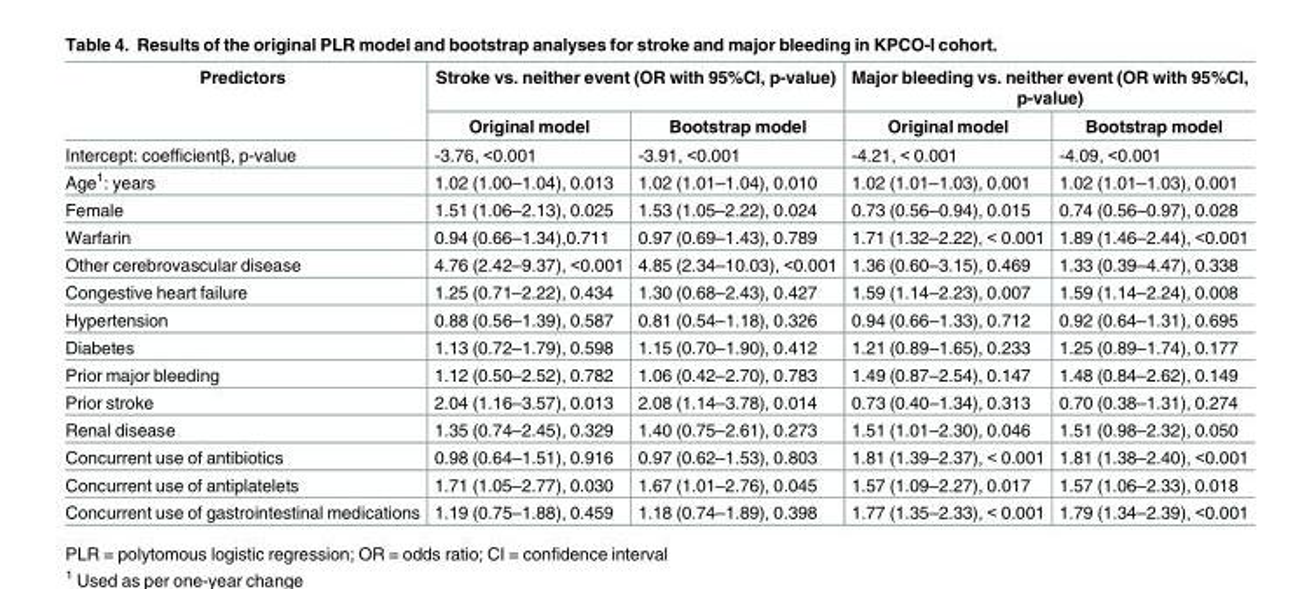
<table><thead><tr><td rowspan="2">Predictors</td><td colspan="2">Stroke vs. neither event (OR with 95%CI, p-value)</td><td colspan="2">Major bleeding vs. neither event (OR with 95%CI, p-value)</td></tr><tr><td>Original model</td><td>Bootstrap model</td><td>Original model</td><td>Bootstrap model</td></tr></thead><tbody><tr><td>Intercept: coefficientβ, p-value</td><td>-3.76, &lt;0.001</td><td>-3.91, &lt;0.001</td><td>-4.21, &lt; 0.001</td><td>-4.09, &lt;0.001</td></tr><tr><td>Age<sup>1</sup>: years</td><td>1.02 (1.00–1.04), 0.013</td><td>1.02 (1.01–1.04), 0.010</td><td>1.02 (1.01–1.03), 0.001</td><td>1.02 (1.01–1.03), 0.001</td></tr><tr><td>Female</td><td>1.51 (1.06–2.13), 0.025</td><td>1.53 (1.05–2.22), 0.024</td><td>0.73 (0.56–0.94), 0.015</td><td>0.74 (0.56–0.97), 0.028</td></tr><tr><td>Warfarin</td><td>0.94 (0.66–1.34),0.711</td><td>0.97 (0.69–1.43), 0.789</td><td>1.71 (1.32–2.22), &lt; 0.001</td><td>1.89 (1.46–2.44), &lt;0.001</td></tr><tr><td>Other cerebrovascular disease</td><td>4.76 (2.42–9.37), &lt;0.001</td><td>4.85 (2.34–10.03), &lt;0.001</td><td>1.36 (0.60–3.15), 0.469</td><td>1.33 (0.39–4.47), 0.338</td></tr><tr><td>Congestive heart failure</td><td>1.25 (0.71–2.22), 0.434</td><td>1.30 (0.68–2.43), 0.427</td><td>1.59 (1.14–2.23), 0.007</td><td>1.59 (1.14–2.24), 0.008</td></tr><tr><td>Hypertension</td><td>0.88 (0.56–1.39), 0.587</td><td>0.81 (0.54–1.18), 0.326</td><td>0.94 (0.66–1.33), 0.712</td><td>0.92 (0.64–1.31), 0.695</td></tr><tr><td>Diabetes</td><td>1.13 (0.72–1.79), 0.598</td><td>1.15 (0.70–1.90), 0.412</td><td>1.21 (0.89–1.65), 0.233</td><td>1.25 (0.89–1.74), 0.177</td></tr><tr><td>Prior major bleeding</td><td>1.12 (0.50–2.52), 0.782</td><td>1.06 (0.42–2.70), 0.783</td><td>1.49 (0.87–2.54), 0.147</td><td>1.48 (0.84–2.62), 0.149</td></tr><tr><td>Prior stroke</td><td>2.04 (1.16–3.57), 0.013</td><td>2.08 (1.14–3.78), 0.014</td><td>0.73 (0.40–1.34), 0.313</td><td>0.70 (0.38–1.31), 0.274</td></tr><tr><td>Renal disease</td><td>1.35 (0.74–2.45), 0.329</td><td>1.40 (0.75–2.61), 0.273</td><td>1.51 (1.01–2.30), 0.046</td><td>1.51 (0.98–2.32), 0.050</td></tr><tr><td>Concurrent use of antibiotics</td><td>0.98 (0.64–1.51), 0.916</td><td>0.97 (0.62–1.53), 0.803</td><td>1.81 (1.39–2.37), &lt; 0.001</td><td>1.81 (1.38–2.40), &lt;0.001</td></tr><tr><td>Concurrent use of antiplatelets</td><td>1.71 (1.05–2.77), 0.030</td><td>1.67 (1.01–2.76), 0.045</td><td>1.57 (1.09–2.27), 0.017</td><td>1.57 (1.06–2.33), 0.018</td></tr><tr><td>Concurrent use of gastrointestinal medications</td><td>1.19 (0.75–1.88), 0.459</td><td>1.18 (0.74–1.89), 0.398</td><td>1.77 (1.35–2.33), &lt; 0.001</td><td>1.79 (1.34–2.39), &lt;0.001</td></tr></tbody></table>